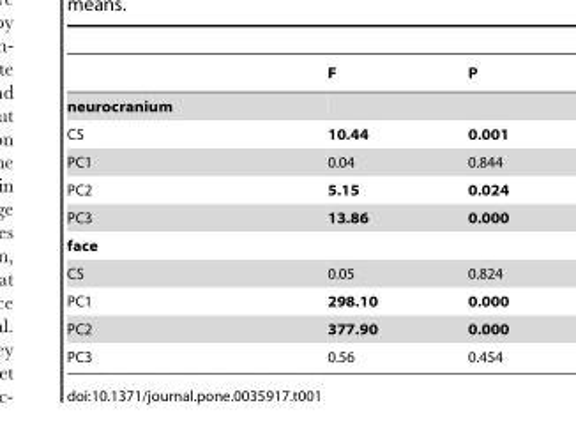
<table><thead><tr><td></td><td>F</td><td>P</td></tr></thead><tbody><tr><td colspan="3">neurocranium</td></tr><tr><td>CS</td><td>10.44</td><td>0.001</td></tr><tr><td>PC1</td><td>0.04</td><td>0.844</td></tr><tr><td>PC2</td><td>5.15</td><td>0.024</td></tr><tr><td>PC3</td><td>13.86</td><td>0.000</td></tr><tr><td colspan="3">face</td></tr><tr><td>CS</td><td>0.05</td><td>0.824</td></tr><tr><td>PC1</td><td>298.10</td><td>0.000</td></tr><tr><td>PC2</td><td>377.90</td><td>0.000</td></tr><tr><td>PC3</td><td>0.56</td><td>0.454</td></tr></tbody></table>